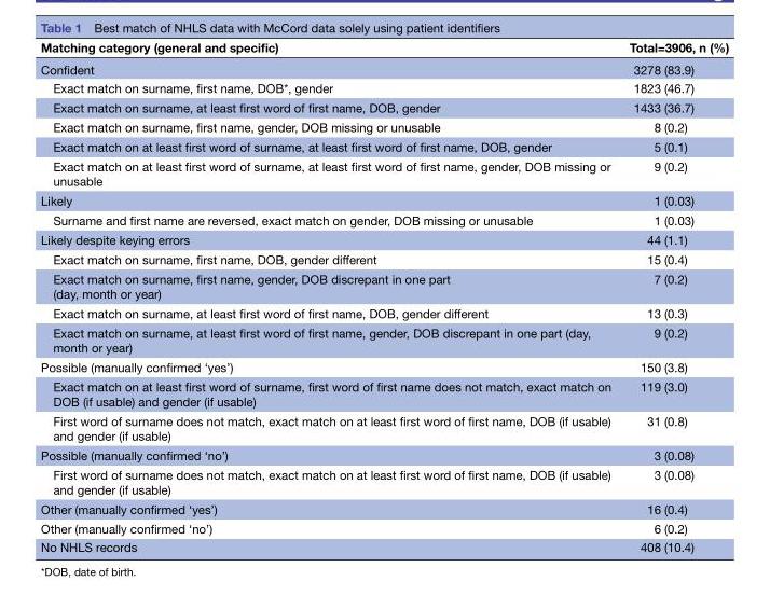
<table><thead><tr><td>Matching category (general and specific)</td><td>Total=3906, n (%)</td></tr></thead><tbody><tr><td>Confident</td><td>3278 (83.9)</td></tr><tr><td>Exact match on surname, first name, DOB*, gender</td><td>1823 (46.7)</td></tr><tr><td>Exact match on surname, at least first word of first name, DOB, gender</td><td>1433 (36.7)</td></tr><tr><td>Exact match on surname, first name, gender, DOB missing or unusable</td><td>8 (0.2)</td></tr><tr><td>Exact match on at least first word of surname, at least first word of first name, DOB, gender</td><td>5 (0.1)</td></tr><tr><td>Exact match on at least first word of surname, at least first word of first name, gender, DOB missing or unusable</td><td>9 (0.2)</td></tr><tr><td>Likely</td><td>1 (0.03)</td></tr><tr><td>Surname and first name are reversed, exact match on gender, DOB missing or unusable</td><td>1 (0.03)</td></tr><tr><td>Likely despite keying errors</td><td>44 (1.1)</td></tr><tr><td>Exact match on surname, first name, DOB, gender different</td><td>15 (0.4)</td></tr><tr><td>Exact match on surname, first name, gender, DOB discrepant in one part (day, month or year)</td><td>7 (0.2)</td></tr><tr><td>Exact match on surname, at least first word of first name, DOB, gender different</td><td>13 (0.3)</td></tr><tr><td>Exact match on surname, at least first word of first name, gender, DOB discrepant in one part (day, month or year)</td><td>9 (0.2)</td></tr><tr><td>Possible (manually confirmed ‘yes’)</td><td>150 (3.8)</td></tr><tr><td>Exact match on at least first word of surname, first word of first name does not match, exact match on DOB (if usable) and gender (if usable)</td><td>119 (3.0)</td></tr><tr><td>First word of surname does not match, exact match on at least first word of first name, DOB (if usable) and gender (if usable)</td><td>31 (0.8)</td></tr><tr><td>Possible (manually confirmed ‘no’)</td><td>3 (0.08)</td></tr><tr><td>First word of surname does not match, exact match on at least first word of first name, DOB (if usable) and gender (if usable)</td><td>3 (0.08)</td></tr><tr><td>Other (manually confirmed ‘yes’)</td><td>16 (0.4)</td></tr><tr><td>Other (manually confirmed ‘no’)</td><td>6 (0.2)</td></tr><tr><td>No NHLS records</td><td>408 (10.4)</td></tr></tbody></table>